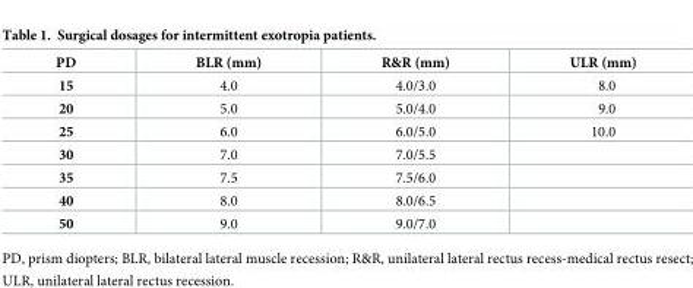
<table><thead><tr><td>PD</td><td>BLR (mm)</td><td>R&amp;R (mm)</td><td>ULR (mm)</td></tr></thead><tbody><tr><td>15</td><td>4.0</td><td>4.0/3.0</td><td>8.0</td></tr><tr><td>20</td><td>5.0</td><td>5.0/4.0</td><td>9.0</td></tr><tr><td>25</td><td>6.0</td><td>6.0/5.0</td><td>10.0</td></tr><tr><td>30</td><td>7.0</td><td>7.0/5.5</td><td></td></tr><tr><td>35</td><td>7.5</td><td>7.5/6.0</td><td></td></tr><tr><td>40</td><td>8.0</td><td>8.0/6.5</td><td></td></tr><tr><td>50</td><td>9.0</td><td>9.0/7.0</td><td></td></tr></tbody></table>